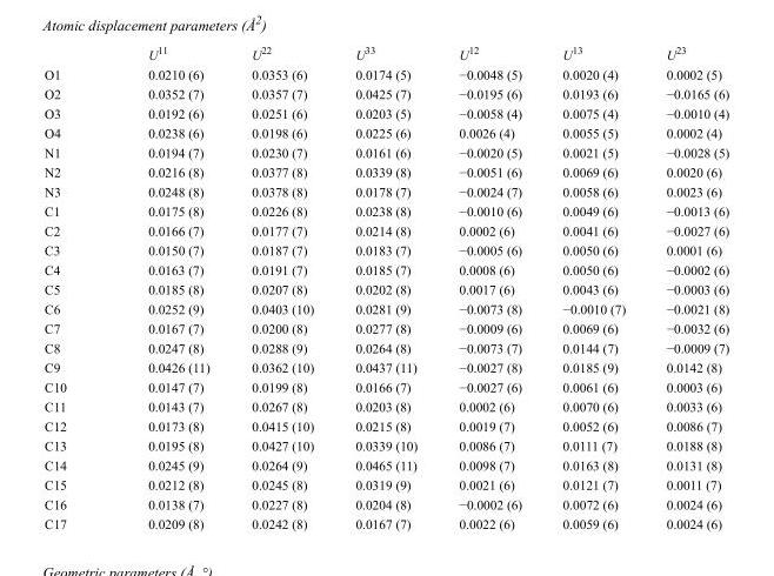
<table><thead><tr><td></td><td>U<sup>11</sup></td><td>U<sup>22</sup></td><td>U<sup>33</sup></td><td>U<sup>12</sup></td><td>U<sup>13</sup></td><td>U<sup>23</sup></td></tr></thead><tbody><tr><td>O1</td><td>0.0210 (6)</td><td>0.0353 (6)</td><td>0.0174 (5)</td><td>−0.0048 (5)</td><td>0.0020 (4)</td><td>0.0002 (5)</td></tr><tr><td>O2</td><td>0.0352 (7)</td><td>0.0357 (7)</td><td>0.0425 (7)</td><td>−0.0195 (6)</td><td>0.0193 (6)</td><td>−0.0165 (6)</td></tr><tr><td>O3</td><td>0.0192 (6)</td><td>0.0251 (6)</td><td>0.0203 (5)</td><td>−0.0058 (4)</td><td>0.0075 (4)</td><td>−0.0010 (4)</td></tr><tr><td>O4</td><td>0.0238 (6)</td><td>0.0198 (6)</td><td>0.0225 (6)</td><td>0.0026 (4)</td><td>0.0055 (5)</td><td>0.0002 (4)</td></tr><tr><td>N1</td><td>0.0194 (7)</td><td>0.0230 (7)</td><td>0.0161 (6)</td><td>−0.0020 (5)</td><td>0.0021 (5)</td><td>−0.0028 (5)</td></tr><tr><td>N2</td><td>0.0216 (8)</td><td>0.0377 (8)</td><td>0.0339 (8)</td><td>−0.0051 (6)</td><td>0.0069 (6)</td><td>0.0020 (6)</td></tr><tr><td>N3</td><td>0.0248 (8)</td><td>0.0378 (8)</td><td>0.0178 (7)</td><td>−0.0024 (7)</td><td>0.0058 (6)</td><td>0.0023 (6)</td></tr><tr><td>C1</td><td>0.0175 (8)</td><td>0.0226 (8)</td><td>0.0238 (8)</td><td>−0.0010 (6)</td><td>0.0049 (6)</td><td>−0.0013 (6)</td></tr><tr><td>C2</td><td>0.0166 (7)</td><td>0.0177 (7)</td><td>0.0214 (8)</td><td>0.0002 (6)</td><td>0.0041 (6)</td><td>−0.0027 (6)</td></tr><tr><td>C3</td><td>0.0150 (7)</td><td>0.0187 (7)</td><td>0.0183 (7)</td><td>−0.0005 (6)</td><td>0.0050 (6)</td><td>0.0001 (6)</td></tr><tr><td>C4</td><td>0.0163 (7)</td><td>0.0191 (7)</td><td>0.0185 (7)</td><td>0.0008 (6)</td><td>0.0050 (6)</td><td>−0.0002 (6)</td></tr><tr><td>C5</td><td>0.0185 (8)</td><td>0.0207 (8)</td><td>0.0202 (8)</td><td>0.0017 (6)</td><td>0.0043 (6)</td><td>−0.0003 (6)</td></tr><tr><td>C6</td><td>0.0252 (9)</td><td>0.0403 (10)</td><td>0.0281 (9)</td><td>−0.0073 (8)</td><td>−0.0010 (7)</td><td>−0.0021 (8)</td></tr><tr><td>C7</td><td>0.0167 (7)</td><td>0.0200 (8)</td><td>0.0277 (8)</td><td>−0.0009 (6)</td><td>0.0069 (6)</td><td>−0.0032 (6)</td></tr><tr><td>C8</td><td>0.0247 (8)</td><td>0.0288 (9)</td><td>0.0264 (8)</td><td>−0.0073 (7)</td><td>0.0144 (7)</td><td>−0.0009 (7)</td></tr><tr><td>C9</td><td>0.0426 (11)</td><td>0.0362 (10)</td><td>0.0437 (11)</td><td>−0.0027 (8)</td><td>0.0185 (9)</td><td>0.0142 (8)</td></tr><tr><td>C10</td><td>0.0147 (7)</td><td>0.0199 (8)</td><td>0.0166 (7)</td><td>−0.0027 (6)</td><td>0.0061 (6)</td><td>0.0003 (6)</td></tr><tr><td>C11</td><td>0.0143 (7)</td><td>0.0267 (8)</td><td>0.0203 (8)</td><td>0.0002 (6)</td><td>0.0070 (6)</td><td>0.0033 (6)</td></tr><tr><td>C12</td><td>0.0173 (8)</td><td>0.0415 (10)</td><td>0.0215 (8)</td><td>0.0019 (7)</td><td>0.0052 (6)</td><td>0.0086 (7)</td></tr><tr><td>C13</td><td>0.0195 (8)</td><td>0.0427 (10)</td><td>0.0339 (10)</td><td>0.0086 (7)</td><td>0.0111 (7)</td><td>0.0188 (8)</td></tr><tr><td>C14</td><td>0.0245 (9)</td><td>0.0264 (9)</td><td>0.0465 (11)</td><td>0.0098 (7)</td><td>0.0163 (8)</td><td>0.0131 (8)</td></tr><tr><td>C15</td><td>0.0212 (8)</td><td>0.0245 (8)</td><td>0.0319 (9)</td><td>0.0021 (6)</td><td>0.0121 (7)</td><td>0.0011 (7)</td></tr><tr><td>C16</td><td>0.0138 (7)</td><td>0.0227 (8)</td><td>0.0204 (8)</td><td>−0.0002 (6)</td><td>0.0072 (6)</td><td>0.0024 (6)</td></tr><tr><td>C17</td><td>0.0209 (8)</td><td>0.0242 (8)</td><td>0.0167 (7)</td><td>0.0022 (6)</td><td>0.0059 (6)</td><td>0.0024 (6)</td></tr></tbody></table>